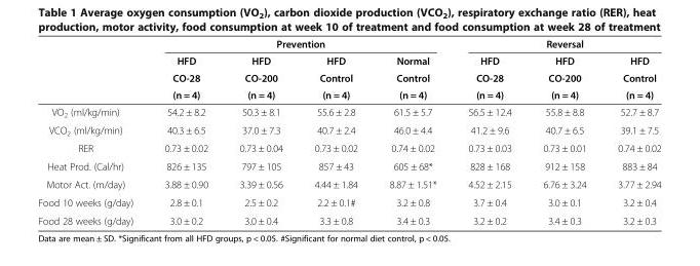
<table><thead><tr><td rowspan="4"></td><td colspan="4">Prevention</td><td colspan="3">Reversal</td></tr><tr><td rowspan="3">HFD CO-28 (n = 4)</td><td rowspan="3">HFD CO-200 (n = 4)</td><td rowspan="3">HFD Control (n = 4)</td><td rowspan="3">Normal Control (n = 4)</td><td rowspan="3">HFD CO-28 (n = 4)</td><td rowspan="3">HFD CO-200 (n = 4)</td><td rowspan="3">HFD Control (n = 4)</td></tr><tr></tr><tr></tr></thead><tbody><tr><td>VO<sub>2</sub> (ml/kg/min)</td><td>54.2 ± 8.2</td><td>50.3 ± 8.1</td><td>55.6 ± 2.8</td><td>61.5 ± 5.7</td><td>56.5 ± 12.4</td><td>55.8 ± 8.8</td><td>52.7 ± 8.7</td></tr><tr><td>VCO<sub>2</sub> (ml/kg/min)</td><td>40.3 ± 6.5</td><td>37.0 ± 7.3</td><td>40.7 ± 2.4</td><td>46.0 ± 4.4</td><td>41.2 ± 9.6</td><td>40.7 ± 6.5</td><td>39.1 ± 7.5</td></tr><tr><td>RER</td><td>0.73 ± 0.02</td><td>0.73 ± 0.04</td><td>0.73 ± 0.02</td><td>0.74 ± 0.02</td><td>0.73 ± 0.03</td><td>0.73 ± 0.01</td><td>0.74 ± 0.02</td></tr><tr><td>Heat Prod. (Cal/hr)</td><td>826 ± 135</td><td>797 ± 105</td><td>857 ± 43</td><td>605 ± 68*</td><td>828 ± 168</td><td>912 ± 158</td><td>883 ± 84</td></tr><tr><td>Motor Act. (m/day)</td><td>3.88 ± 0.90</td><td>3.39 ± 0.56</td><td>4.44 ± 1.84</td><td>8.87 ± 1.51*</td><td>4.52 ± 2.15</td><td>6.76 ± 3.24</td><td>3.77 ± 2.94</td></tr><tr><td>Food 10 weeks (g/day)</td><td>2.8 ± 0.1</td><td>2.5 ± 0.2</td><td>2.2 ± 0.1#</td><td>3.2 ± 0.8</td><td>3.7 ± 0.4</td><td>3.0 ± 0.1</td><td>3.2 ± 0.4</td></tr><tr><td>Food 28 weeks (g/day)</td><td>3.0 ± 0.2</td><td>3.0 ± 0.4</td><td>3.3 ± 0.8</td><td>3.4 ± 0.3</td><td>3.2 ± 0.2</td><td>3.4 ± 0.3</td><td>3.2 ± 0.3</td></tr></tbody></table>